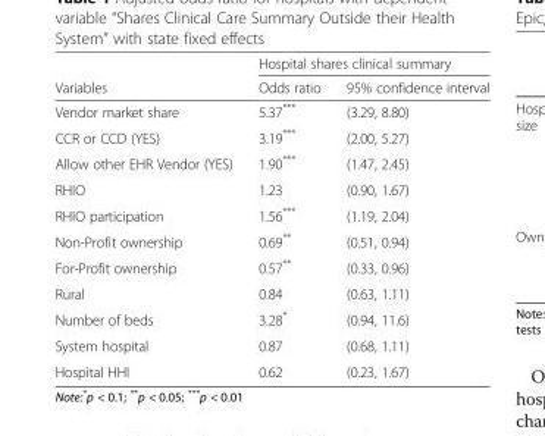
<table><thead><tr><td rowspan="2">Variables</td><td colspan="2">Hospital shares clinical summary</td></tr><tr><td>Odds ratio</td><td>95% confidence interval</td></tr></thead><tbody><tr><td>Vendor market share</td><td>5.37***</td><td>(3.29, 8.80)</td></tr><tr><td>CCR or CCD (YES)</td><td>3.19***</td><td>(2.00, 5.27)</td></tr><tr><td>Allow other EHR Vendor (YES)</td><td>1.90***</td><td>(1.47, 2.45)</td></tr><tr><td>RHIO</td><td>1.23</td><td>(0.90, 1.67)</td></tr><tr><td>RHIO participation</td><td>1.56***</td><td>(1.19, 2.04)</td></tr><tr><td>Non-Profit ownership</td><td>0.69**</td><td>(0.51, 0.94)</td></tr><tr><td>For-Profit ownership</td><td>0.57**</td><td>(0.33, 0.96)</td></tr><tr><td>Rural</td><td>0.84</td><td>(0.63, 1.11)</td></tr><tr><td>Number of beds</td><td>3.28*</td><td>(0.94, 11.6)</td></tr><tr><td>System hospital</td><td>0.87</td><td>(0.68, 1.11)</td></tr><tr><td>Hospital HHI</td><td>0.62</td><td>(0.23, 1.67)</td></tr></tbody></table>